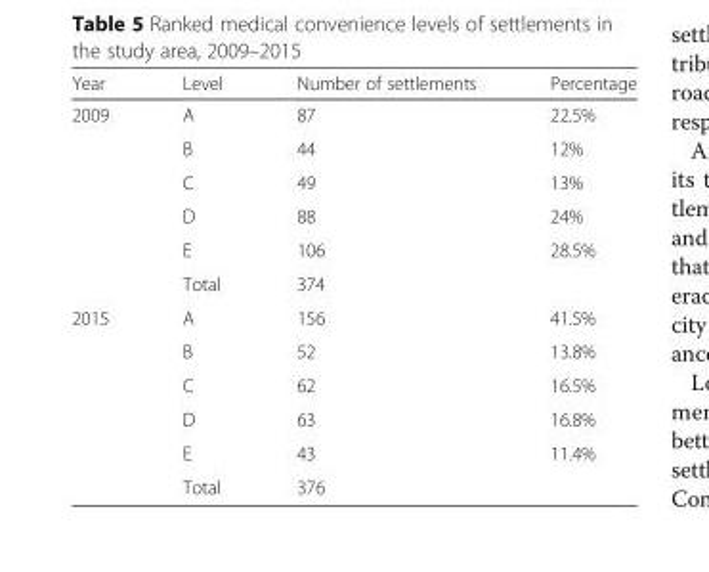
<table><thead><tr><td>Year</td><td>Level</td><td>Number of settlements</td><td>Percentage</td></tr></thead><tbody><tr><td rowspan="6">2009</td><td>A</td><td>87</td><td>22.5%</td></tr><tr><td>B</td><td>44</td><td>12%</td></tr><tr><td>C</td><td>49</td><td>13%</td></tr><tr><td>D</td><td>88</td><td>24%</td></tr><tr><td>E</td><td>106</td><td>28.5%</td></tr><tr><td>Total</td><td>374</td><td></td></tr><tr><td rowspan="6">2015</td><td>A</td><td>156</td><td>41.5%</td></tr><tr><td>B</td><td>52</td><td>13.8%</td></tr><tr><td>C</td><td>62</td><td>16.5%</td></tr><tr><td>D</td><td>63</td><td>16.8%</td></tr><tr><td>E</td><td>43</td><td>11.4%</td></tr><tr><td>Total</td><td>376</td><td></td></tr></tbody></table>